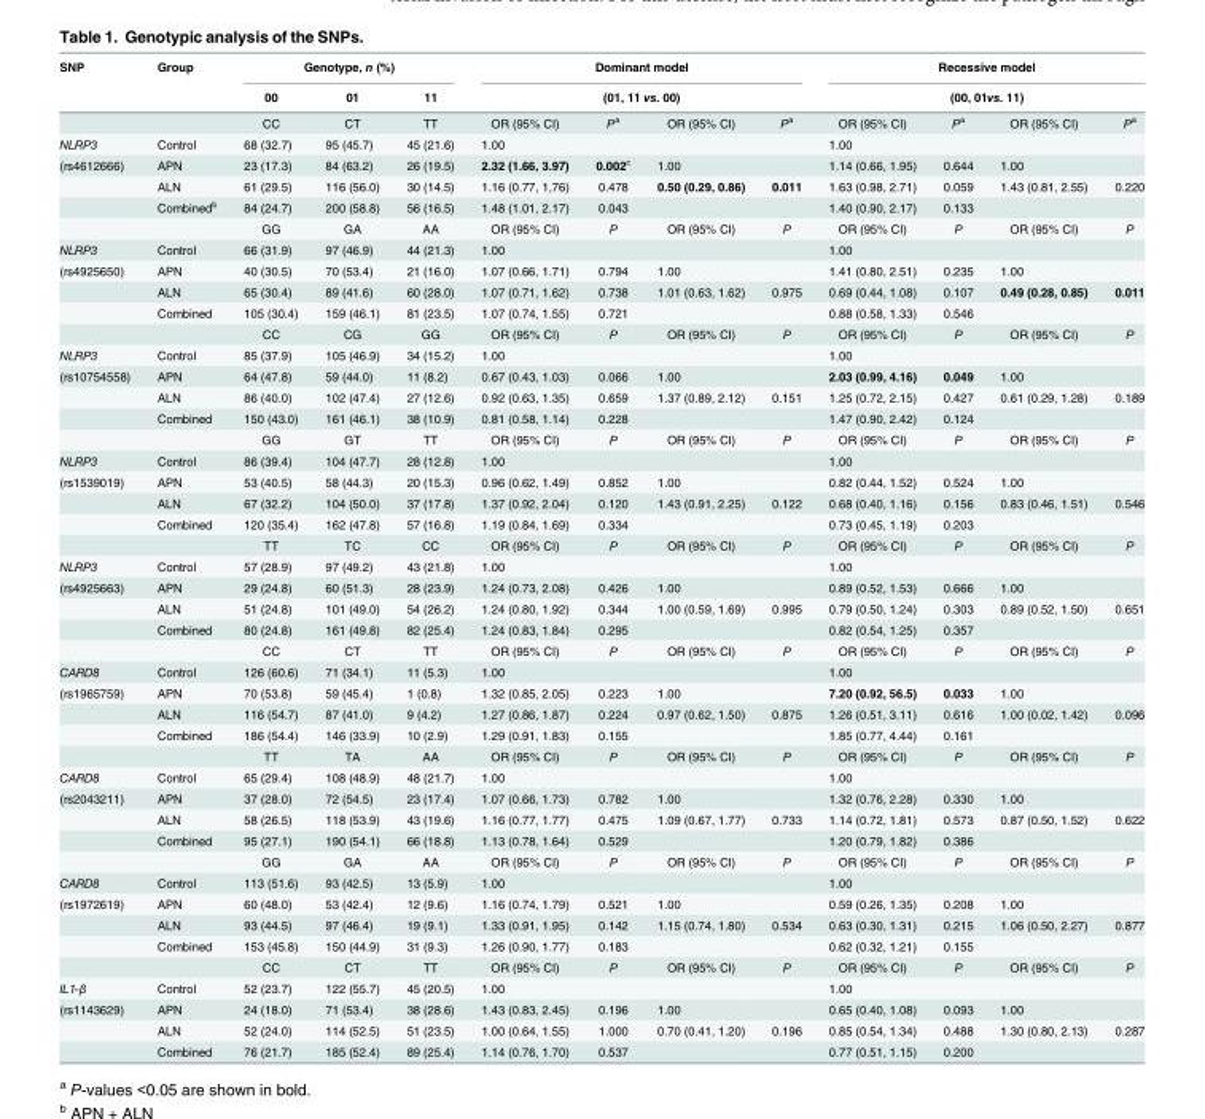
<table><thead><tr><td rowspan="3">SNP</td><td rowspan="3">Group</td><td colspan="3">Genotype, n (%)</td><td rowspan="2" colspan="4">Dominant model (01, 11 vs. 00)</td><td rowspan="2" colspan="4">Recessive model (00, 01vs. 11)</td></tr><tr><td rowspan="2">00 CC</td><td rowspan="2">01 CT</td><td rowspan="2">11 TT</td></tr><tr><td>OR (95% CI)</td><td>P<sup>a</sup></td><td>OR (95% CI)</td><td>P<sup>a</sup></td><td>OR (95% CI)</td><td>P<sup>a</sup></td><td>OR (95% CI)</td><td>P<sup>a</sup></td></tr></thead><tbody><tr><td>NLRP3</td><td>Control</td><td>68 (32.7)</td><td>95 (45.7)</td><td>45 (21.6)</td><td>1.00</td><td></td><td></td><td></td><td>1.00</td><td></td><td></td><td></td></tr><tr><td rowspan="4">(rs4612666)</td><td>APN</td><td>23 (17.3)</td><td>84 (63.2)</td><td>26 (19.5)</td><td>2.32 (1.66, 3.97)</td><td>0.002<sup>c</sup></td><td>1.00</td><td></td><td>1.14 (0.66, 1.95)</td><td>0.644</td><td>1.00</td><td></td></tr><tr><td>ALN</td><td>61 (29.5)</td><td>116 (56.0)</td><td>30 (14.5)</td><td>1.16 (0.77, 1,76)</td><td>0.478</td><td>0.50 (0.29, 0.86)</td><td>0.011</td><td>1.63 (0.98, 2.71)</td><td>0.059</td><td>1.43 (0.81, 2.55)</td><td>0.220</td></tr><tr><td>Combined<sup>b</sup></td><td>84 (24.7)</td><td>200 (58.8)</td><td>56 (16.5)</td><td>1.48 (1.01, 2.17)</td><td>0.043</td><td></td><td></td><td>1.40 (0.90, 2.17)</td><td>0.133</td><td></td><td></td></tr><tr><td></td><td>GG</td><td>GA</td><td>AA</td><td>OR (95% CI)</td><td>P</td><td>OR (95% CI)</td><td>P</td><td>OR (95% CI)</td><td>P</td><td>OR (95% CI)</td><td>P</td></tr><tr><td>NLRP3</td><td>Control</td><td>66 (31.9)</td><td>97 (46.9)</td><td>44 (21.3)</td><td>1.00</td><td></td><td></td><td></td><td>1.00</td><td></td><td></td><td></td></tr><tr><td rowspan="4">(rs4925650)</td><td>APN</td><td>40 (30.5)</td><td>70 (53.4)</td><td>21 (16.0)</td><td>1.07 (0.66, 1.71)</td><td>0.794</td><td>1.00</td><td></td><td>1.41 (0.80, 2.51)</td><td>0.235</td><td>1.00</td><td></td></tr><tr><td>ALN</td><td>65 (30.4)</td><td>89 (41.6)</td><td>60 (28.0)</td><td>1.07 (0.71, 1.62)</td><td>0.738</td><td>1.01 (0.63, 1.62)</td><td>0.975</td><td>0.69 (0.44, 1.08)</td><td>0.107</td><td>0.49 (0.28, 0.85)</td><td>0.011</td></tr><tr><td>Combined</td><td>105 (30.4)</td><td>159 (46.1)</td><td>81 (23.5)</td><td>1.07 (0.74, 1.55)</td><td>0.721</td><td></td><td></td><td>0.88 (0.58, 1.33)</td><td>0.546</td><td></td><td></td></tr><tr><td></td><td>CC</td><td>CG</td><td>GG</td><td>OR (95% CI)</td><td>P</td><td>OR (95% CI)</td><td>P</td><td>OR (95% CI)</td><td>P</td><td>OR (95% CI)</td><td>P</td></tr><tr><td>NLRP3</td><td>Control</td><td>85 (37.9)</td><td>105 (46.9)</td><td>34 (15.2)</td><td>1.00</td><td></td><td></td><td></td><td>1.00</td><td></td><td></td><td></td></tr><tr><td rowspan="4">(rs10754558)</td><td>APN</td><td>64 (47.8)</td><td>59 (44.0)</td><td>11 (8.2)</td><td>0.67 (0.43, 1.03)</td><td>0.066</td><td>1.00</td><td></td><td>2.03 (0.99, 4.16)</td><td>0.049</td><td>1.00</td><td></td></tr><tr><td>ALN</td><td>86 (40.0)</td><td>102 (47.4)</td><td>27 (12.6)</td><td>0.92 (0.63, 1.35)</td><td>0.659</td><td>1.37 (0.89, 2.12)</td><td>0.151</td><td>1.25 (0.72, 2.15)</td><td>0.427</td><td>0.61 (0.29, 1.28)</td><td>0.189</td></tr><tr><td>Combined</td><td>150 (43.0)</td><td>161 (46.1)</td><td>38 (10.9)</td><td>0.81 (0.58, 1.14)</td><td>0.228</td><td></td><td></td><td>1.47 (0.90, 2.42)</td><td>0.124</td><td></td><td></td></tr><tr><td></td><td>GG</td><td>GT</td><td>TT</td><td>OR (95% CI)</td><td>P</td><td>OR (95% CI)</td><td>P</td><td>OR (95% CI)</td><td>P</td><td>OR (95% CI)</td><td>P</td></tr><tr><td>NLRP3</td><td>Control</td><td>86 (39.4)</td><td>104 (47.7)</td><td>28 (12.8)</td><td>1.00</td><td></td><td></td><td></td><td>1.00</td><td></td><td></td><td></td></tr><tr><td rowspan="4">(rs1539019)</td><td>APN</td><td>53 (40.5)</td><td>58 (44.3)</td><td>20 (15.3)</td><td>0.96 (0.62, 1.49)</td><td>0.852</td><td>1.00</td><td></td><td>0.82 (0.44, 1.52)</td><td>0.524</td><td>1.00</td><td></td></tr><tr><td>ALN</td><td>67 (32.2)</td><td>104 (50.0)</td><td>37 (17.8)</td><td>1.37 (0.92, 2.04)</td><td>0.120</td><td>1.43 (0.91, 2.25)</td><td>0.122</td><td>0.68 (0.40, 1.16)</td><td>0.156</td><td>0.83 (0.46, 1.51)</td><td>0.546</td></tr><tr><td>Combined</td><td>120 (35.4)</td><td>162 (47.8)</td><td>57 (16.8)</td><td>1.19 (0.84, 1.69)</td><td>0.334</td><td></td><td></td><td>0.73 (0.45, 1.19)</td><td>0.203</td><td></td><td></td></tr><tr><td></td><td>TT</td><td>TC</td><td>CC</td><td>OR (95% CI)</td><td>P</td><td>OR (95% CI)</td><td>P</td><td>OR (95% CI)</td><td>P</td><td>OR (95% CI)</td><td>P</td></tr><tr><td>NLRP3</td><td>Control</td><td>57 (28.9)</td><td>97 (49.2)</td><td>43 (21.8)</td><td>1.00</td><td></td><td></td><td></td><td>1.00</td><td></td><td></td><td></td></tr><tr><td rowspan="4">(rs4925663)</td><td>APN</td><td>29 (24.8)</td><td>60 (51.3)</td><td>28 (23.9)</td><td>1.24 (0.73, 2.08)</td><td>0.426</td><td>1.00</td><td></td><td>0.89 (0.52, 1.53)</td><td>0.666</td><td>1.00</td><td></td></tr><tr><td>ALN</td><td>51 (24.8)</td><td>101 (49.0)</td><td>54 (26.2)</td><td>1.24 (0.80, 1.92)</td><td>0.344</td><td>1.00 (0.59, 1.69)</td><td>0.995</td><td>0.79 (0.50, 1.24)</td><td>0.303</td><td>0.89 (0.52, 1.50)</td><td>0.651</td></tr><tr><td>Combined</td><td>80 (24.8)</td><td>161 (49.8)</td><td>82 (25.4)</td><td>1.24 (0.83, 1.84)</td><td>0.295</td><td></td><td></td><td>0.82 (0.54, 1.25)</td><td>0.357</td><td></td><td></td></tr><tr><td></td><td>CC</td><td>CT</td><td>TT</td><td>OR (95% CI)</td><td>P</td><td>OR (95% CI)</td><td>P</td><td>OR (95% CI)</td><td>P</td><td>OR (95% CI)</td><td>P</td></tr><tr><td>CARD8</td><td>Control</td><td>126 (60.6)</td><td>71 (34.1)</td><td>11 (5.3)</td><td>1.00</td><td></td><td></td><td></td><td>1.00</td><td></td><td></td><td></td></tr><tr><td rowspan="4">(rs1965759)</td><td>APN</td><td>70 (53.8)</td><td>59 (45.4)</td><td>1 (0.8)</td><td>1.32 (0.85, 2.05)</td><td>0.223</td><td>1.00</td><td></td><td>7.20 (0.92, 56.5)</td><td>0.033</td><td>1.00</td><td></td></tr><tr><td>ALN</td><td>116 (54.7)</td><td>87 (41.0)</td><td>9 (4.2)</td><td>1.27 (0.86, 1.87)</td><td>0.224</td><td>0.97 (0.62, 1.50)</td><td>0.875</td><td>1.26 (0.51, 3.11)</td><td>0.616</td><td>1.00 (0.02, 1.42)</td><td>0.096</td></tr><tr><td>Combined</td><td>186 (54.4)</td><td>146 (33.9)</td><td>10 (2.9)</td><td>1.29 (0.91, 1.83)</td><td>0.155</td><td></td><td></td><td>1.85 (0.77, 4.44)</td><td>0.161</td><td></td><td></td></tr><tr><td></td><td>TT</td><td>TA</td><td>AA</td><td>OR (95% CI)</td><td>P</td><td>OR (95% CI)</td><td>P</td><td>OR (95% CI)</td><td>P</td><td>OR (95% CI)</td><td>P</td></tr><tr><td>CARD8</td><td>Control</td><td>65 (29.4)</td><td>108 (48.9)</td><td>48 (21.7)</td><td>1.00</td><td></td><td></td><td></td><td>1.00</td><td></td><td></td><td></td></tr><tr><td rowspan="4">(rs2043211)</td><td>APN</td><td>37 (28.0)</td><td>72 (54.5)</td><td>23 (17.4)</td><td>1.07 (0.66, 1.73)</td><td>0.782</td><td>1.00</td><td></td><td>1.32 (0.76, 2.28)</td><td>0.330</td><td>1.00</td><td></td></tr><tr><td>ALN</td><td>58 (26.5)</td><td>118 (53.9)</td><td>43 (19.6)</td><td>1.16 (0.77, 1.77)</td><td>0.475</td><td>1.09 (0.67, 1.77)</td><td>0.733</td><td>1.14 (0.72, 1.81)</td><td>0.573</td><td>0.87 (0.50, 1.52)</td><td>0.622</td></tr><tr><td>Combined</td><td>95 (27.1)</td><td>190 (54.1)</td><td>66 (18.8)</td><td>1.13 (0.78, 1.64)</td><td>0.529</td><td></td><td></td><td>1.20 (0.79, 1.82)</td><td>0.386</td><td></td><td></td></tr><tr><td></td><td>GG</td><td>GA</td><td>AA</td><td>OR (95% CI)</td><td>P</td><td>OR (95% CI)</td><td>P</td><td>OR (95% CI)</td><td>P</td><td>OR (95% CI)</td><td>P</td></tr><tr><td>CARD8</td><td>Control</td><td>113 (51.6)</td><td>93 (42.5)</td><td>13 (5.9)</td><td>1.00</td><td></td><td></td><td></td><td>1.00</td><td></td><td></td><td></td></tr><tr><td rowspan="4">(rs1972619)</td><td>APN</td><td>60 (48.0)</td><td>53 (42.4)</td><td>12 (9.6)</td><td>1.16 (0.74, 1.79)</td><td>0.521</td><td>1.00</td><td></td><td>0.59 (0.26, 1.35)</td><td>0.208</td><td>1.00</td><td></td></tr><tr><td>ALN</td><td>93 (44.5)</td><td>97 (46.4)</td><td>19 (9.1)</td><td>1.33 (0.91, 1.95)</td><td>0.142</td><td>1.15 (0.74, 1.80)</td><td>0.534</td><td>0.63 (0.30, 1.31)</td><td>0.215</td><td>1.06 (0.50, 2.27)</td><td>0.877</td></tr><tr><td>Combined</td><td>153 (45.8)</td><td>150 (44.9)</td><td>31 (9.3)</td><td>1.26 (0.90, 1.77)</td><td>0.183</td><td></td><td></td><td>0.62 (0.32, 1.21)</td><td>0.155</td><td></td><td></td></tr><tr><td></td><td>CC</td><td>CT</td><td>TT</td><td>OR (95% CI)</td><td>P</td><td>OR (95% CI)</td><td>P</td><td>OR (95% CI)</td><td>P</td><td>OR (95% CI)</td><td>P</td></tr><tr><td>IL1-β</td><td>Control</td><td>52 (23.7)</td><td>122 (55.7)</td><td>45 (20.5)</td><td>1.00</td><td></td><td></td><td></td><td>1.00</td><td></td><td></td><td></td></tr><tr><td rowspan="3">(rs1143629)</td><td>APN</td><td>24 (18.0)</td><td>71 (53.4)</td><td>38 (28.6)</td><td>1.43 (0.83, 2.45)</td><td>0.196</td><td>1.00</td><td></td><td>0.65 (0.40, 1.08)</td><td>0.093</td><td>1.00</td><td></td></tr><tr><td>ALN</td><td>52 (24.0)</td><td>114 (52.5)</td><td>51 (23.5)</td><td>1.00 (0.64, 1.55)</td><td>1.000</td><td>0.70 (0.41, 1.20)</td><td>0.196</td><td>0.85 (0.54, 1.34)</td><td>0.488</td><td>1.30 (0.80, 2.13)</td><td>0.287</td></tr><tr><td>Combined</td><td>76 (21.7)</td><td>185 (52.4)</td><td>89 (25.4)</td><td>1.14 (0.76, 1.70)</td><td>0.537</td><td></td><td></td><td>0.77 (0.51, 1.15)</td><td>0.200</td><td></td><td></td></tr></tbody></table>